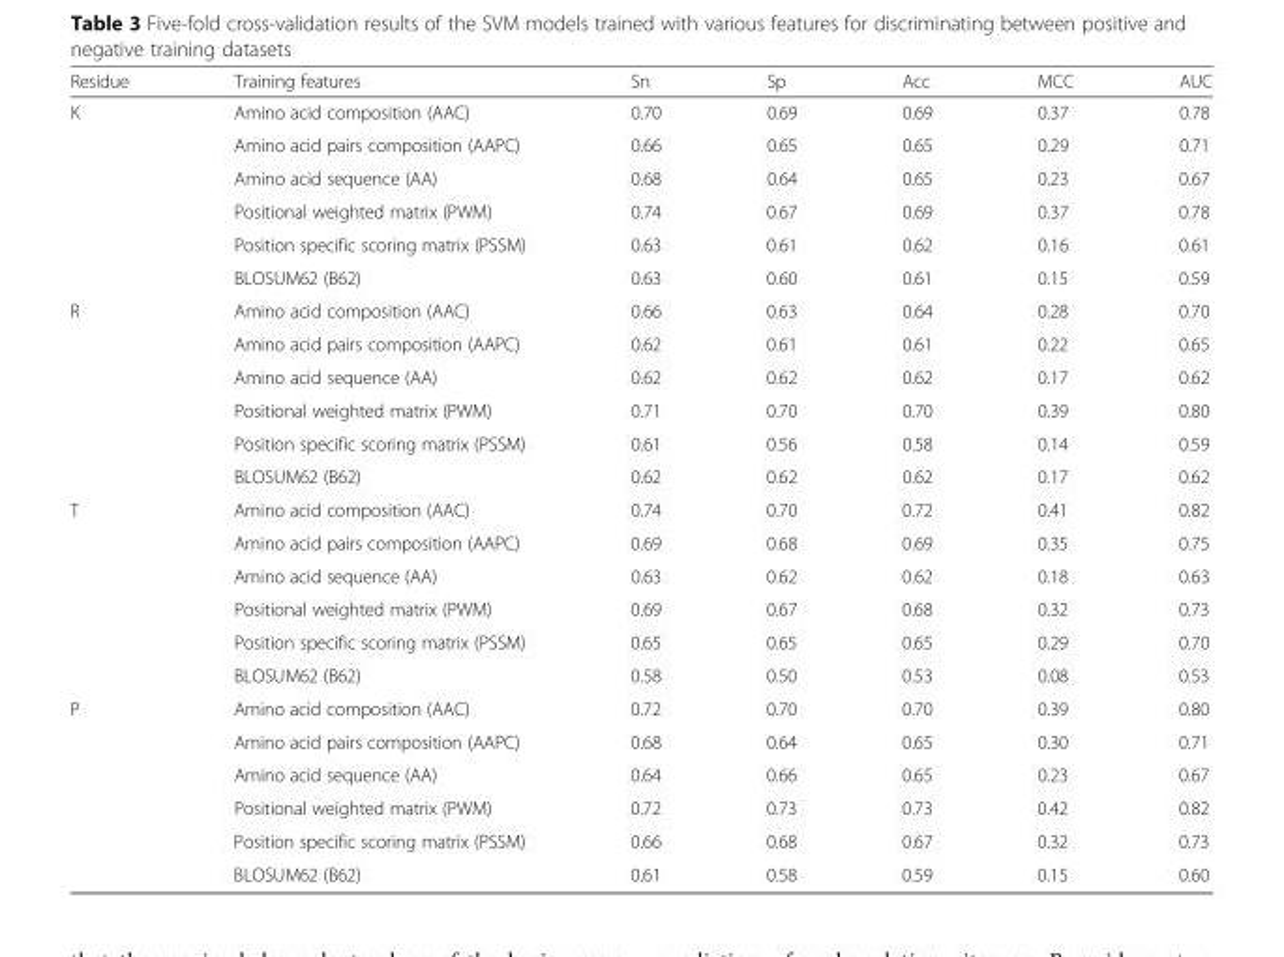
<table><thead><tr><td>Residue</td><td>Training features</td><td>Sn</td><td>Sp</td><td>Acc</td><td>MCC</td><td>AUC</td></tr></thead><tbody><tr><td rowspan="6">K</td><td>Amino acid composition (AAC)</td><td>0.70</td><td>0.69</td><td>0.69</td><td>0.37</td><td>0.78</td></tr><tr><td>Amino acid pairs composition (AAPC)</td><td>0.66</td><td>0.65</td><td>0.65</td><td>0.29</td><td>0.71</td></tr><tr><td>Amino acid sequence (AA)</td><td>0.68</td><td>0.64</td><td>0.65</td><td>0.23</td><td>0.67</td></tr><tr><td>Positional weighted matrix (PWM)</td><td>0.74</td><td>0.67</td><td>0.69</td><td>0.37</td><td>0.78</td></tr><tr><td>Position specific scoring matrix (PSSM)</td><td>0.63</td><td>0.61</td><td>0.62</td><td>0.16</td><td>0.61</td></tr><tr><td>BLOSUM62 (B62)</td><td>0.63</td><td>0.60</td><td>0.61</td><td>0.15</td><td>0.59</td></tr><tr><td rowspan="6">R</td><td>Amino acid composition (AAC)</td><td>0.66</td><td>0.63</td><td>0.64</td><td>0.28</td><td>0.70</td></tr><tr><td>Amino acid pairs composition (AAPC)</td><td>0.62</td><td>0.61</td><td>0.61</td><td>0.22</td><td>0.65</td></tr><tr><td>Amino acid sequence (AA)</td><td>0.62</td><td>0.62</td><td>0.62</td><td>0.17</td><td>0.62</td></tr><tr><td>Positional weighted matrix (PWM)</td><td>0.71</td><td>0.70</td><td>0.70</td><td>0.39</td><td>0.80</td></tr><tr><td>Position specific scoring matrix (PSSM)</td><td>0.61</td><td>0.56</td><td>0.58</td><td>0.14</td><td>0.59</td></tr><tr><td>BLOSUM62 (B62)</td><td>0.62</td><td>0.62</td><td>0.62</td><td>0.17</td><td>0.62</td></tr><tr><td rowspan="6">T</td><td>Amino acid composition (AAC)</td><td>0.74</td><td>0.70</td><td>0.72</td><td>0.41</td><td>0.82</td></tr><tr><td>Amino acid pairs composition (AAPC)</td><td>0.69</td><td>0.68</td><td>0.69</td><td>0.35</td><td>0.75</td></tr><tr><td>Amino acid sequence (AA)</td><td>0.63</td><td>0.62</td><td>0.62</td><td>0.18</td><td>0.63</td></tr><tr><td>Positional weighted matrix (PWM)</td><td>0.69</td><td>0.67</td><td>0.68</td><td>0.32</td><td>0.73</td></tr><tr><td>Position specific scoring matrix (PSSM)</td><td>0.65</td><td>0.65</td><td>0.65</td><td>0.29</td><td>0.70</td></tr><tr><td>BLOSUM62 (B62)</td><td>0.58</td><td>0.50</td><td>0.53</td><td>0.08</td><td>0.53</td></tr><tr><td rowspan="6">P</td><td>Amino acid composition (AAC)</td><td>0.72</td><td>0.70</td><td>0.70</td><td>0.39</td><td>0.80</td></tr><tr><td>Amino acid pairs composition (AAPC)</td><td>0.68</td><td>0.64</td><td>0.65</td><td>0.30</td><td>0.71</td></tr><tr><td>Amino acid sequence (AA)</td><td>0.64</td><td>0.66</td><td>0.65</td><td>0.23</td><td>0.67</td></tr><tr><td>Positional weighted matrix (PWM)</td><td>0.72</td><td>0.73</td><td>0.73</td><td>0.42</td><td>0.82</td></tr><tr><td>Position specific scoring matrix (PSSM)</td><td>0.66</td><td>0.68</td><td>0.67</td><td>0.32</td><td>0.73</td></tr><tr><td>BLOSUM62 (B62)</td><td>0.61</td><td>0.58</td><td>0.59</td><td>0.15</td><td>0.60</td></tr></tbody></table>